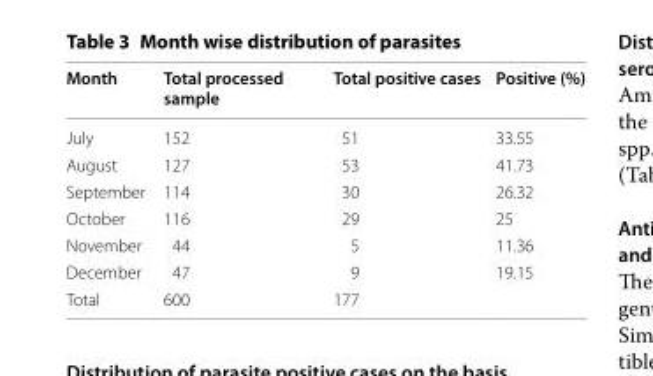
<table><thead><tr><td>Month</td><td>Total processed sample</td><td>Total positive cases</td><td>Positive (%)</td></tr></thead><tbody><tr><td>July</td><td>152</td><td>51</td><td>33.55</td></tr><tr><td>August</td><td>127</td><td>53</td><td>41.73</td></tr><tr><td>September</td><td>114</td><td>30</td><td>26.32</td></tr><tr><td>October</td><td>116</td><td>29</td><td>25</td></tr><tr><td>November</td><td>44</td><td>5</td><td>11.36</td></tr><tr><td>December</td><td>47</td><td>9</td><td>19.15</td></tr><tr><td>Total</td><td>600</td><td>177</td><td></td></tr></tbody></table>